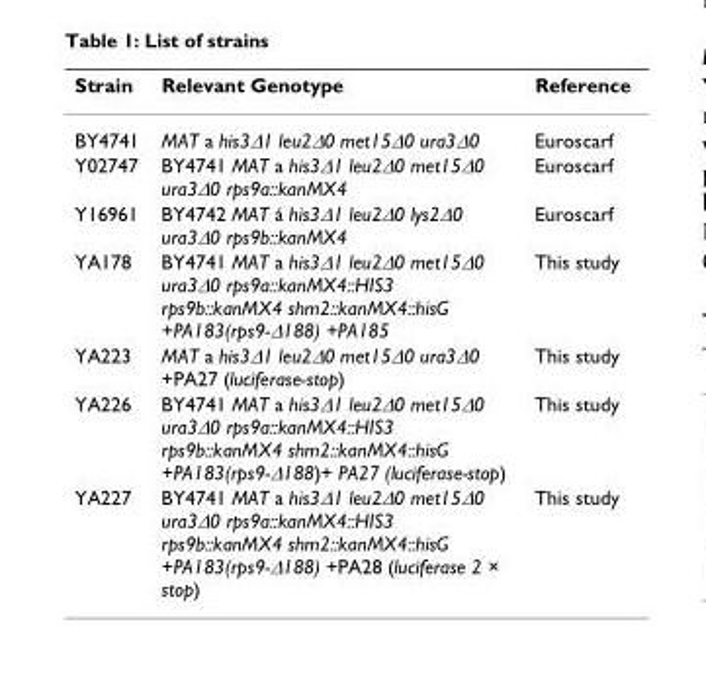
<table><thead><tr><td>Strain</td><td>Relevant Genotype</td><td>Reference</td></tr></thead><tbody><tr><td>BY4741</td><td>MAT a his3Δ1 leu2Δ0 met15Δ0 ura3Δ0</td><td>Euroscarf</td></tr><tr><td>Y02747</td><td>BY4741 MAT a his3Δ1 leu2Δ0 met15Δ0 ura3Δ0 rps9a::kanMX4</td><td>Euroscarf</td></tr><tr><td>Y16961</td><td>BY4742 MAT á his3Δ1 leu2Δ0 lys2Δ0 ura3Δ0 rps9b::kanMX4</td><td>Euroscarf</td></tr><tr><td>YA178</td><td>BY4741 MAT a his3Δ1 leu2Δ0 met15Δ0 ura3Δ0 rps9a::kanMX4::HIS3 rps9b::kanMX4 shm2::kanMX4::hisG +PA183(rps9-Δ188) +PA185</td><td>This study</td></tr><tr><td>YA223</td><td>MAT a his3Δ1 leu2Δ0 met15Δ0 ura3Δ0 +PA27 (luciferase-stop)</td><td>This study</td></tr><tr><td>YA226</td><td>BY4741 MAT a his3Δ1 leu2Δ0 met15Δ0 ura3Δ0 rps9a::kanMX4::HIS3 rps9b::kanMX4 shm2::kanMX4::hisG +PA183(rps9-Δ188)+ PA27 (luciferase-stop)</td><td>This study</td></tr><tr><td>YA227</td><td>BY4741 MAT a his3Δ1 leu2Δ0 met15Δ0 ura3Δ0 rps9a::kanMX4::HIS3 rps9b::kanMX4 shm2::kanMX4::hisG +PA183(rps9-Δ188) +PA28 (luciferase 2 × stop)</td><td>This study</td></tr></tbody></table>